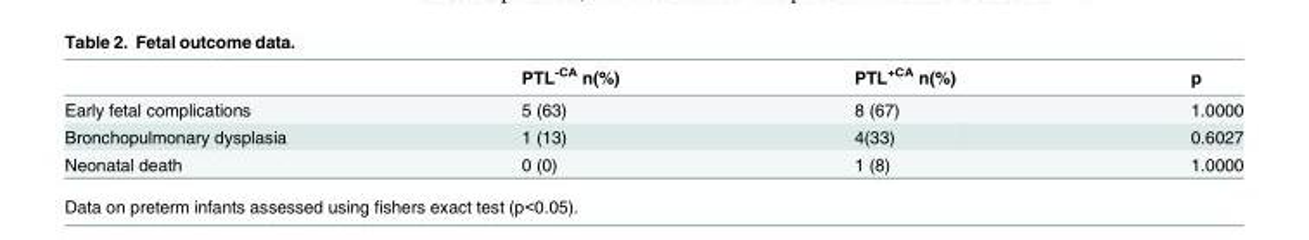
<table><thead><tr><td></td><td>PTL<sup>-CA</sup> n(%)</td><td>PTL<sup>+CA</sup> n(%)</td><td>p</td></tr></thead><tbody><tr><td>Early fetal complications</td><td>5 (63)</td><td>8 (67)</td><td>1.0000</td></tr><tr><td>Bronchopulmonary dysplasia</td><td>1 (13)</td><td>4(33)</td><td>0.6027</td></tr><tr><td>Neonatal death</td><td>0 (0)</td><td>1 (8)</td><td>1.0000</td></tr></tbody></table>